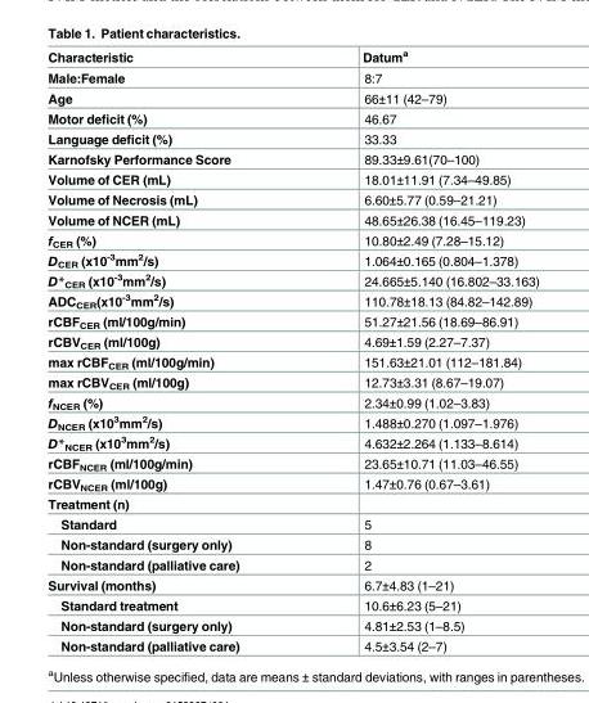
<table><thead><tr><td>Characteristic</td><td>Datum<sup>a</sup></td></tr></thead><tbody><tr><td>Male:Female</td><td>8:7</td></tr><tr><td>Age</td><td>66±11 (42–79)</td></tr><tr><td>Motor deficit (%)</td><td>46.67</td></tr><tr><td>Language deficit (%)</td><td>33.33</td></tr><tr><td>Karnofsky Performance Score</td><td>89.33±9.61(70–100)</td></tr><tr><td>Volume of CER (mL)</td><td>18.01±11.91 (7.34–49.85)</td></tr><tr><td>Volume of Necrosis (mL)</td><td>6.60±5.77 (0.59–21.21)</td></tr><tr><td>Volume of NCER (mL)</td><td>48.65±26.38 (16.45–119.23)</td></tr><tr><td>f<sub>CER</sub> (%)</td><td>10.80±2.49 (7.28–15.12)</td></tr><tr><td>D<sub>CER</sub> (x10<sup>-3</sup>mm<sup>2</sup>/s)</td><td>1.064±0.165 (0.804–1.378)</td></tr><tr><td>D*<sub>CER</sub> (x10<sup>-3</sup>mm<sup>2</sup>/s)</td><td>24.665±5.140 (16.802–33.163)</td></tr><tr><td>ADC<sub>CER</sub>(x10<sup>-3</sup>mm<sup>2</sup>/s)</td><td>110.78±18.13 (84.82–142.89)</td></tr><tr><td>rCBF<sub>CER</sub> (ml/100g/min)</td><td>51.27±21.56 (18.69–86.91)</td></tr><tr><td>rCBV<sub>CER</sub> (ml/100g)</td><td>4.69±1.59 (2.27–7.37)</td></tr><tr><td>max rCBF<sub>CER</sub> (ml/100g/min)</td><td>151.63±21.01 (112–181.84)</td></tr><tr><td>max rCBV<sub>CER</sub> (ml/100g)</td><td>12.73±3.31 (8.67–19.07)</td></tr><tr><td>f<sub>NCER</sub> (%)</td><td>2.34±0.99 (1.02–3.83)</td></tr><tr><td>D<sub>NCER</sub> (x10<sup>3</sup>mm<sup>2</sup>/s)</td><td>1.488±0.270 (1.097–1.976)</td></tr><tr><td>D*<sub>NCER</sub> (x10<sup>3</sup>mm<sup>2</sup>/s)</td><td>4.632±2.264 (1.133–8.614)</td></tr><tr><td>rCBF<sub>NCER</sub> (ml/100g/min)</td><td>23.65±10.71 (11.03–46.55)</td></tr><tr><td>rCBV<sub>NCER</sub> (ml/100g)</td><td>1.47±0.76 (0.67–3.61)</td></tr><tr><td colspan="2">Treatment (n)</td></tr><tr><td>Standard</td><td>5</td></tr><tr><td>Non-standard (surgery only)</td><td>8</td></tr><tr><td>Non-standard (palliative care)</td><td>2</td></tr><tr><td>Survival (months)</td><td>6.7±4.83 (1–21)</td></tr><tr><td>Standard treatment</td><td>10.6±6.23 (5–21)</td></tr><tr><td>Non-standard (surgery only)</td><td>4.81±2.53 (1–8.5)</td></tr><tr><td>Non-standard (palliative care)</td><td>4.5±3.54 (2–7)</td></tr></tbody></table>